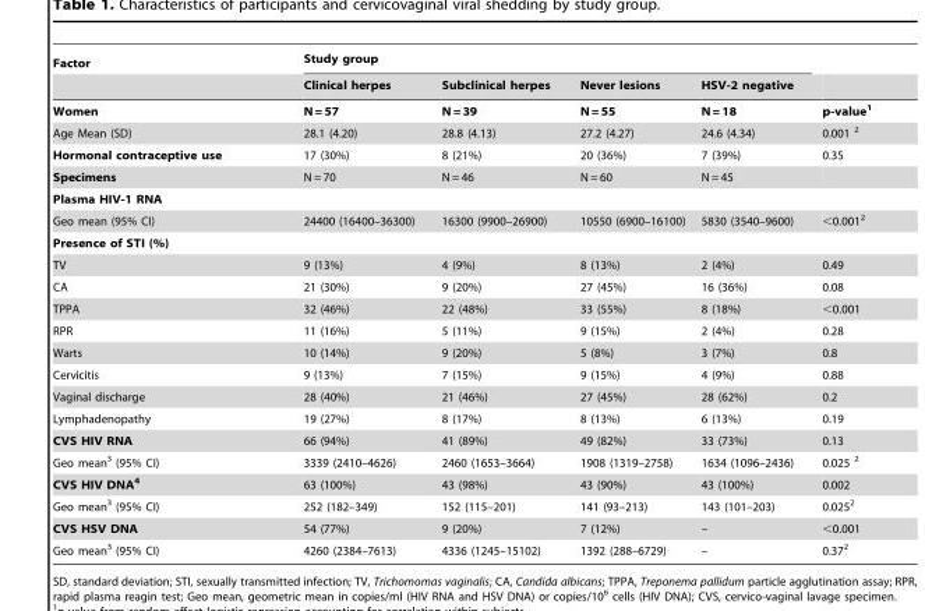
<table><thead><tr><td rowspan="2">Factor</td><td colspan="4">Study group</td><td rowspan="2"></td></tr><tr><td>Clinical herpes</td><td>Subclinical herpes</td><td>Never lesions</td><td>HSV-2 negative</td></tr></thead><tbody><tr><td>Women</td><td>N = 57</td><td>N = 39</td><td>N = 55</td><td>N = 18</td><td>p-value1</td></tr><tr><td>Age Mean (SD)</td><td>28.1 (4.20)</td><td>28.8 (4.13)</td><td>27.2 (4.27)</td><td>24.6 (4.34)</td><td>0.001 2</td></tr><tr><td>Hormonal contraceptive use</td><td>17 (30%)</td><td>8 (21%)</td><td>20 (36%)</td><td>7 (39%)</td><td>0.35</td></tr><tr><td>Specimens</td><td>N = 70</td><td>N = 46</td><td>N = 60</td><td>N = 45</td><td></td></tr><tr><td colspan="6">Plasma HIV-1 RNA</td></tr><tr><td>Geo mean (95% CI)</td><td>24400 (16400–36300)</td><td>16300 (9900–26900)</td><td>10550 (6900–16100)</td><td>5830 (3540–9600)</td><td>&lt;0.001<sup>2</sup></td></tr><tr><td colspan="6">Presence of STI (%)</td></tr><tr><td>TV</td><td>9 (13%)</td><td>4 (9%)</td><td>8 (13%)</td><td>2 (4%)</td><td>0.49</td></tr><tr><td>CA</td><td>21 (30%)</td><td>9 (20%)</td><td>27 (45%)</td><td>16 (36%)</td><td>0.08</td></tr><tr><td>TPPA</td><td>32 (46%)</td><td>22 (48%)</td><td>33 (55%)</td><td>8 (18%)</td><td>&lt;0.001</td></tr><tr><td>RPR</td><td>11 (16%)</td><td>5 (11%)</td><td>9 (15%)</td><td>2 (4%)</td><td>0.28</td></tr><tr><td>Warts</td><td>10 (14%)</td><td>9 (20%)</td><td>5 (8%)</td><td>3 (7%)</td><td>0.8</td></tr><tr><td>Cervicitis</td><td>9 (13%)</td><td>7 (15%)</td><td>9 (15%)</td><td>4 (9%)</td><td>0.88</td></tr><tr><td>Vaginal discharge</td><td>28 (40%)</td><td>21 (46%)</td><td>27 (45%)</td><td>28 (62%)</td><td>0.2</td></tr><tr><td>Lymphadenopathy</td><td>19 (27%)</td><td>8 (17%)</td><td>8 (13%)</td><td>6 (13%)</td><td>0.19</td></tr><tr><td>CVS HIV RNA</td><td>66 (94%)</td><td>41 (89%)</td><td>49 (82%)</td><td>33 (73%)</td><td>0.13</td></tr><tr><td>Geo mean<sup>3</sup> (95% CI)</td><td>3339 (2410–4626)</td><td>2460 (1653–3664)</td><td>1908 (1319–2758)</td><td>1634 (1096–2436)</td><td>0.025 2</td></tr><tr><td>CVS HIV DNA4</td><td>63 (100%)</td><td>43 (98%)</td><td>43 (90%)</td><td>43 (100%)</td><td>0.002</td></tr><tr><td>Geo mean<sup>3</sup> (95% CI)</td><td>252 (182–349)</td><td>152 (115–201)</td><td>141 (93–213)</td><td>143 (101–203)</td><td>0.025<sup>2</sup></td></tr><tr><td>CVS HSV DNA</td><td>54 (77%)</td><td>9 (20%)</td><td>7 (12%)</td><td>–</td><td>&lt;0.001</td></tr><tr><td>Geo mean<sup>3</sup> (95% CI)</td><td>4260 (2384–7613)</td><td>4336 (1245–15102)</td><td>1392 (288–6729)</td><td>–</td><td>0.37<sup>2</sup></td></tr></tbody></table>